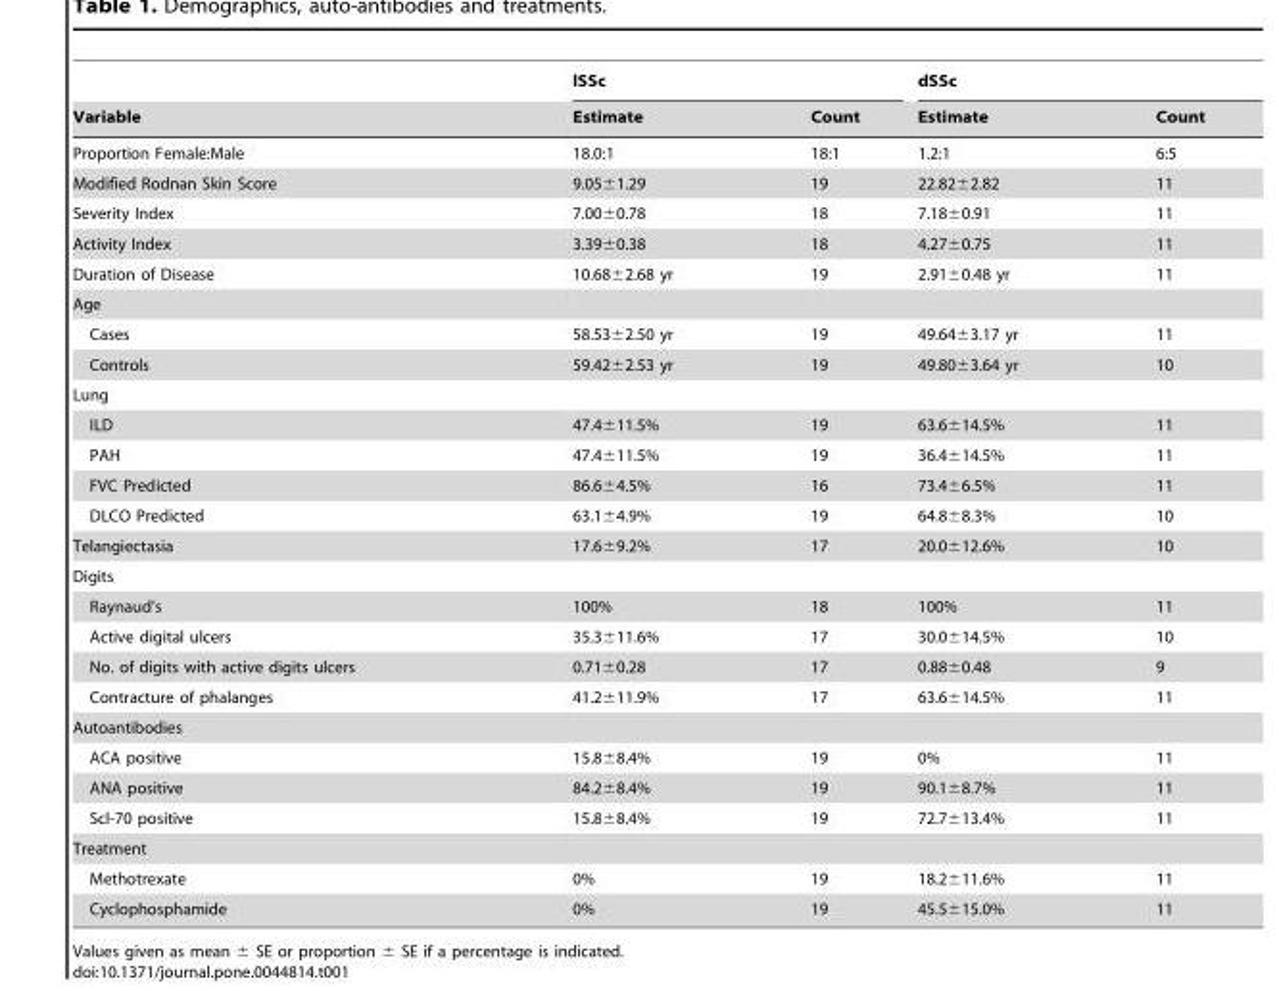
<table><thead><tr><td rowspan="2">Variable</td><td colspan="2">lSSc</td><td colspan="2">dSSc</td></tr><tr><td>Estimate</td><td>Count</td><td>Estimate</td><td>Count</td></tr></thead><tbody><tr><td>Proportion Female:Male</td><td>18.0:1</td><td>18:1</td><td>1.2:1</td><td>6:5</td></tr><tr><td>Modified Rodnan Skin Score</td><td>9.05±1.29</td><td>19</td><td>22.82±2.82</td><td>11</td></tr><tr><td>Severity Index</td><td>7.00±0.78</td><td>18</td><td>7.18±0.91</td><td>11</td></tr><tr><td>Activity Index</td><td>3.39±0.38</td><td>18</td><td>4.27±0.75</td><td>11</td></tr><tr><td>Duration of Disease</td><td>10.68±2.68 yr</td><td>19</td><td>2.91±0.48 yr</td><td>11</td></tr><tr><td colspan="5">Age</td></tr><tr><td>Cases</td><td>58.53±2.50 yr</td><td>19</td><td>49.64±3.17 yr</td><td>11</td></tr><tr><td>Controls</td><td>59.42±2.53 yr</td><td>19</td><td>49.80±3.64 yr</td><td>10</td></tr><tr><td colspan="5">Lung</td></tr><tr><td>ILD</td><td>47.4±11.5%</td><td>19</td><td>63.6±14.5%</td><td>11</td></tr><tr><td>PAH</td><td>47.4±11.5%</td><td>19</td><td>36.4±14.5%</td><td>11</td></tr><tr><td>FVC Predicted</td><td>86.6±4.5%</td><td>16</td><td>73.4±6.5%</td><td>11</td></tr><tr><td>DLCO Predicted</td><td>63.1±4.9%</td><td>19</td><td>64.8±8.3%</td><td>10</td></tr><tr><td>Telangiectasia</td><td>17.6±9.2%</td><td>17</td><td>20.0±12.6%</td><td>10</td></tr><tr><td colspan="5">Digits</td></tr><tr><td>Raynaud’s</td><td>100%</td><td>18</td><td>100%</td><td>11</td></tr><tr><td>Active digital ulcers</td><td>35.3±11.6%</td><td>17</td><td>30.0±14.5%</td><td>10</td></tr><tr><td>No. of digits with active digits ulcers</td><td>0.71±0.28</td><td>17</td><td>0.88±0.48</td><td>9</td></tr><tr><td>Contracture of phalanges</td><td>41.2±11.9%</td><td>17</td><td>63.6±14.5%</td><td>11</td></tr><tr><td colspan="5">Autoantibodies</td></tr><tr><td>ACA positive</td><td>15.8±8.4%</td><td>19</td><td>0%</td><td>11</td></tr><tr><td>ANA positive</td><td>84.2±8.4%</td><td>19</td><td>90.1±8.7%</td><td>11</td></tr><tr><td>Scl-70 positive</td><td>15.8±8.4%</td><td>19</td><td>72.7±13.4%</td><td>11</td></tr><tr><td colspan="5">Treatment</td></tr><tr><td>Methotrexate</td><td>0%</td><td>19</td><td>18.2±11.6%</td><td>11</td></tr><tr><td>Cyclophosphamide</td><td>0%</td><td>19</td><td>45.5±15.0%</td><td>11</td></tr></tbody></table>